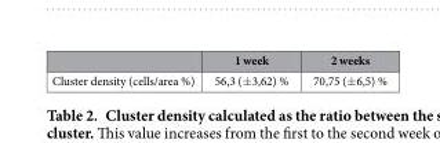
<table><thead><tr><td></td><td>1 week</td><td>2 weeks</td></tr></thead><tbody><tr><td>Cluster density (cells/area %)</td><td>56,3 (± 3,62) %</td><td>70,75 (± 6,5) %</td></tr></tbody></table>